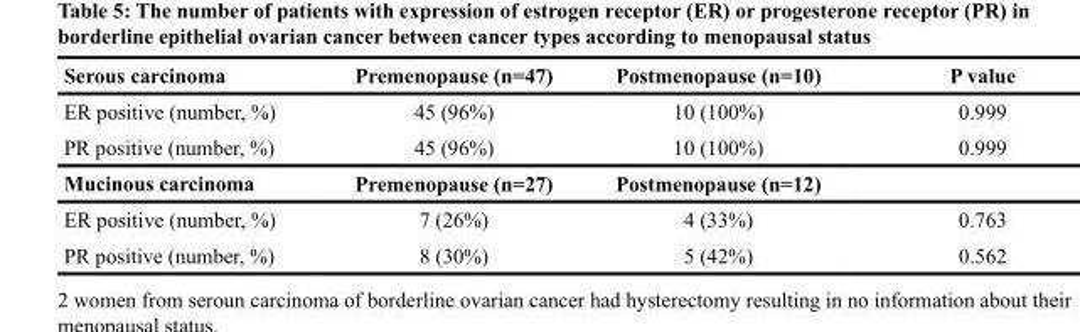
<table><thead><tr><td>Serous carcinoma</td><td>Premenopause (n=47)</td><td>Postmenopause (n=10)</td><td>P value</td></tr></thead><tbody><tr><td>ER positive (number, %)</td><td>45 (96%)</td><td>10 (100%)</td><td>0.999</td></tr><tr><td>PR positive (number, %)</td><td>45 (96%)</td><td>10 (100%)</td><td>0.999</td></tr><tr><td>Mucinous carcinoma</td><td>Premenopause (n=27)</td><td>Postmenopause (n=12)</td><td></td></tr><tr><td>ER positive (number, %)</td><td>7 (26%)</td><td>4 (33%)</td><td>0.763</td></tr><tr><td>PR positive (number, %)</td><td>8 (30%)</td><td>5 (42%)</td><td>0.562</td></tr></tbody></table>